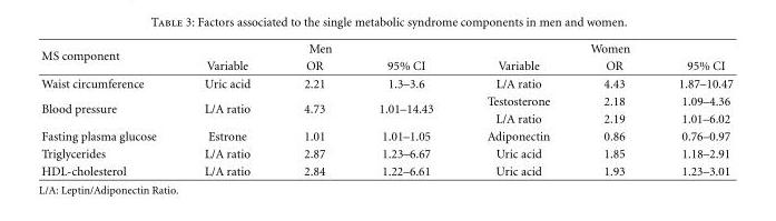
<table><thead><tr><td rowspan="2">MS component</td><td colspan="3">Men</td><td colspan="3">Women</td></tr><tr><td>Variable</td><td>OR</td><td>95% CI</td><td>Variable</td><td>OR</td><td>95% CI</td></tr></thead><tbody><tr><td>Waist circumference</td><td>Uric acid</td><td>2.21</td><td>1.3–3.6</td><td>L/A ratio</td><td>4.43</td><td>1.87–10.47</td></tr><tr><td rowspan="2">Blood pressure</td><td rowspan="2">L/A ratio</td><td rowspan="2">4.73</td><td rowspan="2">1.01–14.43</td><td>Testosterone</td><td>2.18</td><td>1.09–4.36</td></tr><tr><td>L/A ratio</td><td>2.19</td><td>1.01–6.02</td></tr><tr><td>Fasting plasma glucose</td><td>Estrone</td><td>1.01</td><td>1.01–1.05</td><td>Adiponectin</td><td>0.86</td><td>0.76–0.97</td></tr><tr><td>Triglycerides</td><td>L/A ratio</td><td>2.87</td><td>1.23–6.67</td><td>Uric acid</td><td>1.85</td><td>1.18–2.91</td></tr><tr><td>HDL-cholesterol</td><td>L/A ratio</td><td>2.84</td><td>1.22–6.61</td><td>Uric acid</td><td>1.93</td><td>1.23–3.01</td></tr></tbody></table>